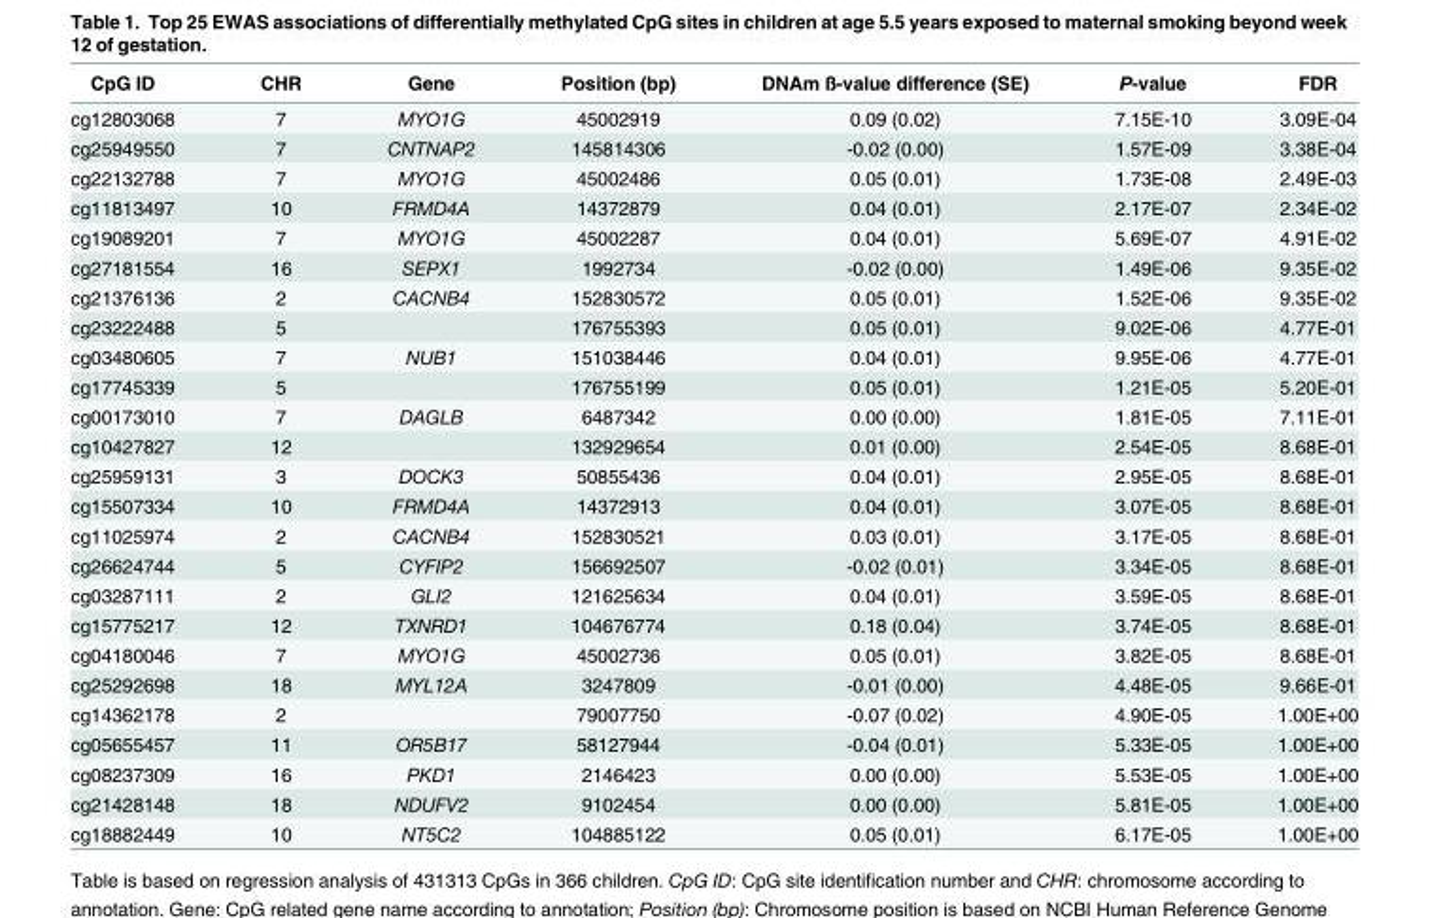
<table><thead><tr><td>CpG ID</td><td>CHR</td><td>Gene</td><td>Position (bp)</td><td>DNAm ß-value difference (SE)</td><td>P-value</td><td>FDR</td></tr></thead><tbody><tr><td>cg12803068</td><td>7</td><td>MYO1G</td><td>45002919</td><td>0.09 (0.02)</td><td>7.15E-10</td><td>3.09E-04</td></tr><tr><td>cg25949550</td><td>7</td><td>CNTNAP2</td><td>145814306</td><td>-0.02 (0.00)</td><td>1.57E-09</td><td>3.38E-04</td></tr><tr><td>cg22132788</td><td>7</td><td>MYO1G</td><td>45002486</td><td>0.05 (0.01)</td><td>1.73E-08</td><td>2.49E-03</td></tr><tr><td>cg11813497</td><td>10</td><td>FRMD4A</td><td>14372879</td><td>0.04 (0.01)</td><td>2.17E-07</td><td>2.34E-02</td></tr><tr><td>cg19089201</td><td>7</td><td>MYO1G</td><td>45002287</td><td>0.04 (0.01)</td><td>5.69E-07</td><td>4.91E-02</td></tr><tr><td>cg27181554</td><td>16</td><td>SEPX1</td><td>1992734</td><td>-0.02 (0.00)</td><td>1.49E-06</td><td>9.35E-02</td></tr><tr><td>cg21376136</td><td>2</td><td>CACNB4</td><td>152830572</td><td>0.05 (0.01)</td><td>1.52E-06</td><td>9.35E-02</td></tr><tr><td>cg23222488</td><td>5</td><td></td><td>176755393</td><td>0.05 (0.01)</td><td>9.02E-06</td><td>4.77E-01</td></tr><tr><td>cg03480605</td><td>7</td><td>NUB1</td><td>151038446</td><td>0.04 (0.01)</td><td>9.95E-06</td><td>4.77E-01</td></tr><tr><td>cg17745339</td><td>5</td><td></td><td>176755199</td><td>0.05 (0.01)</td><td>1.21E-05</td><td>5.20E-01</td></tr><tr><td>cg00173010</td><td>7</td><td>DAGLB</td><td>6487342</td><td>0.00 (0.00)</td><td>1.81E-05</td><td>7.11E-01</td></tr><tr><td>cg10427827</td><td>12</td><td></td><td>132929654</td><td>0.01 (0.00)</td><td>2.54E-05</td><td>8.68E-01</td></tr><tr><td>cg25959131</td><td>3</td><td>DOCK3</td><td>50855436</td><td>0.04 (0.01)</td><td>2.95E-05</td><td>8.68E-01</td></tr><tr><td>cg15507334</td><td>10</td><td>FRMD4A</td><td>14372913</td><td>0.04 (0.01)</td><td>3.07E-05</td><td>8.68E-01</td></tr><tr><td>cg11025974</td><td>2</td><td>CACNB4</td><td>152830521</td><td>0.03 (0.01)</td><td>3.17E-05</td><td>8.68E-01</td></tr><tr><td>cg26624744</td><td>5</td><td>CYFIP2</td><td>156692507</td><td>-0.02 (0.01)</td><td>3.34E-05</td><td>8.68E-01</td></tr><tr><td>cg03287111</td><td>2</td><td>GLI2</td><td>121625634</td><td>0.04 (0.01)</td><td>3.59E-05</td><td>8.68E-01</td></tr><tr><td>cg15775217</td><td>12</td><td>TXNRD1</td><td>104676774</td><td>0.18 (0.04)</td><td>3.74E-05</td><td>8.68E-01</td></tr><tr><td>cg04180046</td><td>7</td><td>MYO1G</td><td>45002736</td><td>0.05 (0.01)</td><td>3.82E-05</td><td>8.68E-01</td></tr><tr><td>cg25292698</td><td>18</td><td>MYL12A</td><td>3247809</td><td>-0.01 (0.00)</td><td>4.48E-05</td><td>9.66E-01</td></tr><tr><td>cg14362178</td><td>2</td><td></td><td>79007750</td><td>-0.07 (0.02)</td><td>4.90E-05</td><td>1.00E+00</td></tr><tr><td>cg05655457</td><td>11</td><td>OR5B17</td><td>58127944</td><td>-0.04 (0.01)</td><td>5.33E-05</td><td>1.00E+00</td></tr><tr><td>cg08237309</td><td>16</td><td>PKD1</td><td>2146423</td><td>0.00 (0.00)</td><td>5.53E-05</td><td>1.00E+00</td></tr><tr><td>cg21428148</td><td>18</td><td>NDUFV2</td><td>9102454</td><td>0.00 (0.00)</td><td>5.81E-05</td><td>1.00E+00</td></tr><tr><td>cg18882449</td><td>10</td><td>NT5C2</td><td>104885122</td><td>0.05 (0.01)</td><td>6.17E-05</td><td>1.00E+00</td></tr></tbody></table>